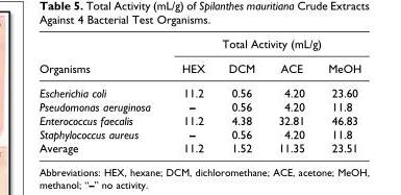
<table><thead><tr><td rowspan="2">Organisms</td><td colspan="4">Total Activity (mL/g)</td></tr><tr><td>HEX</td><td>DCM</td><td>ACE</td><td>MeOH</td></tr></thead><tbody><tr><td>Escherichia coli</td><td>11.2</td><td>0.56</td><td>4.20</td><td>23.60</td></tr><tr><td>Pseudomonas aeruginosa</td><td>–</td><td>0.56</td><td>4.20</td><td>11.8</td></tr><tr><td>Enterococcus faecalis</td><td>11.2</td><td>4.38</td><td>32.81</td><td>46.83</td></tr><tr><td>Staphylococcus aureus</td><td>–</td><td>0.56</td><td>4.20</td><td>11.8</td></tr><tr><td>Average</td><td>11.2</td><td>1.52</td><td>11.35</td><td>23.51</td></tr></tbody></table>